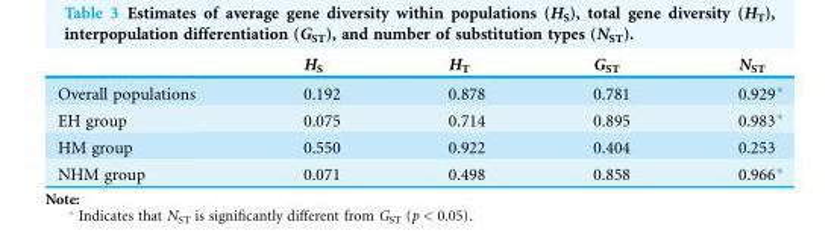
<table><thead><tr><td></td><td>H<sub>S</sub></td><td>H<sub>T</sub></td><td>G<sub>ST</sub></td><td>N<sub>ST</sub></td></tr></thead><tbody><tr><td>Overall populations</td><td>0.192</td><td>0.878</td><td>0.781</td><td>0.929*</td></tr><tr><td>EH group</td><td>0.075</td><td>0.714</td><td>0.895</td><td>0.983*</td></tr><tr><td>HM group</td><td>0.550</td><td>0.922</td><td>0.404</td><td>0.253</td></tr><tr><td>NHM group</td><td>0.071</td><td>0.498</td><td>0.858</td><td>0.966*</td></tr></tbody></table>